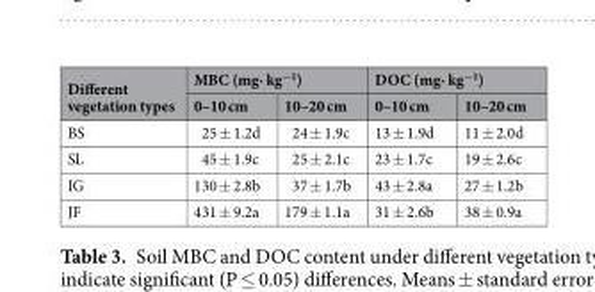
<table><thead><tr><td rowspan="2">Different vegetation types</td><td colspan="2">MBC (mg· kg<sup>−1</sup>)</td><td colspan="2">DOC (mg· kg<sup>−1</sup>)</td></tr><tr><td>0–10 cm</td><td>10–20 cm</td><td>0–10 cm</td><td>10–20 cm</td></tr></thead><tbody><tr><td>BS</td><td>25 ± 1.2d</td><td>24 ± 1.9c</td><td>13 ± 1.9d</td><td>11 ± 2.0d</td></tr><tr><td>SL</td><td>45 ± 1.9c</td><td>25 ± 2.1c</td><td>23 ± 1.7c</td><td>19 ± 2.6c</td></tr><tr><td>IG</td><td>130 ± 2.8b</td><td>37 ± 1.7b</td><td>43 ± 2.8a</td><td>27 ± 1.2b</td></tr><tr><td>JF</td><td>431 ± 9.2a</td><td>179 ± 1.1a</td><td>31 ± 2.6b</td><td>38 ± 0.9a</td></tr></tbody></table>